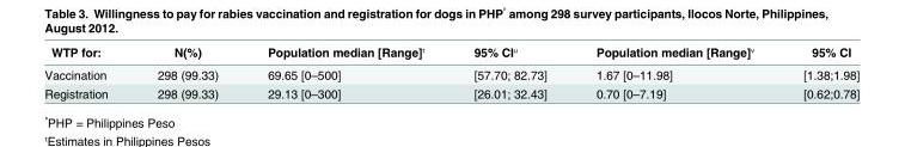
<table><thead><tr><td>WTP for:</td><td>N(%)</td><td>Population median [Range]ᵗ</td><td>95% CIᵘ</td><td>Population median [Range]ᵛ</td><td>95% CI</td></tr></thead><tbody><tr><td>Vaccination</td><td>298 (99.33)</td><td>69.65 [0–500]</td><td>[57.70; 82.73]</td><td>1.67 [0–11.98]</td><td>[1.38;1.98]</td></tr><tr><td>Registration</td><td>298 (99.33)</td><td>29.13 [0–300]</td><td>[26.01; 32.43]</td><td>0.70 [0–7.19]</td><td>[0.62;0.78]</td></tr></tbody></table>